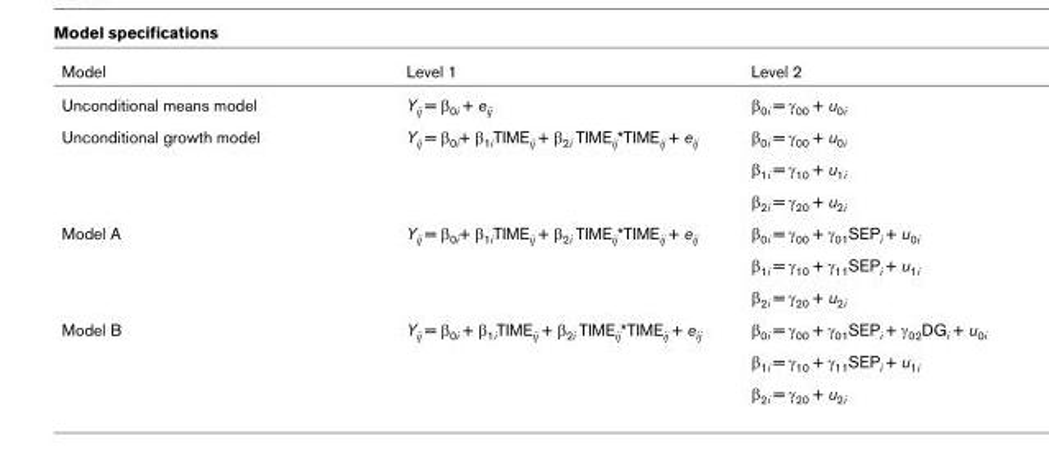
<table><thead><tr><td>Model</td><td>Level 1</td><td>Level 2</td></tr></thead><tbody><tr><td>Unconditional means model</td><td>Y<sub>ij</sub> = β<sub>0i</sub> + e<sub>ij</sub></td><td>β<sub>0i</sub> = γ<sub>00</sub> + u<sub>0i</sub></td></tr><tr><td rowspan="3">Unconditional growth model</td><td>Y<sub>ij</sub> = β<sub>0i</sub>+ β<sub>1i</sub>TIME<sub>ij</sub> + β<sub>2i</sub> TIME<sub>ij</sub>*TIME<sub>ij</sub> + e<sub>ij</sub></td><td>β<sub>0i</sub> = γ<sub>00</sub> + u<sub>0i</sub></td></tr><tr><td></td><td>β<sub>1i</sub> = γ<sub>10</sub> + u<sub>1i</sub></td></tr><tr><td></td><td>β<sub>2i</sub> = γ<sub>20</sub> + u<sub>2i</sub></td></tr><tr><td rowspan="3">Model A</td><td>Y<sub>ij</sub> = β<sub>0i</sub>+ β<sub>1i</sub>TIME<sub>ij</sub> + β<sub>2i</sub> TIME<sub>ij</sub>*TIME<sub>ij</sub> + e<sub>ij</sub></td><td>β<sub>0i</sub> = γ<sub>00</sub> + γ<sub>01</sub>SEP<sub>i</sub> + u<sub>0i</sub></td></tr><tr><td></td><td>β<sub>1i</sub> = γ<sub>10</sub> + γ<sub>11</sub>SEP<sub>i</sub> + u<sub>1i</sub></td></tr><tr><td></td><td>β<sub>2i</sub> = γ<sub>20</sub> + u<sub>2i</sub></td></tr><tr><td rowspan="3">Model B</td><td>Y<sub>ij</sub> = β<sub>0i</sub> + β<sub>1i</sub>TIME<sub>ij</sub> + β<sub>2i</sub> TIME<sub>ij</sub>*TIME<sub>ij</sub> + e<sub>ij</sub></td><td>β<sub>0i</sub> = γ<sub>00</sub> + γ<sub>01</sub>SEP<sub>i</sub> + γ<sub>02</sub>DG<sub>i</sub> + u<sub>0i</sub></td></tr><tr><td></td><td>β<sub>1i</sub> = γ<sub>10</sub> + γ<sub>11</sub>SEP<sub>i</sub> + u<sub>1i</sub></td></tr><tr><td></td><td>β<sub>2i</sub> = γ<sub>20</sub> + u<sub>2i</sub></td></tr></tbody></table>